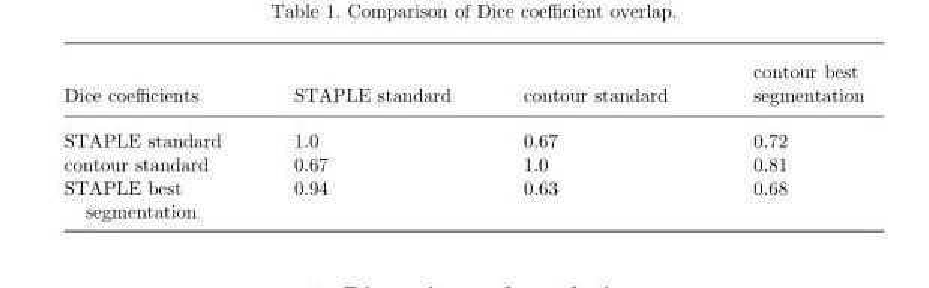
<table><thead><tr><td>Dice coefficients</td><td>STAPLE standard</td><td>contour standard</td><td>contour best segmentation</td></tr></thead><tbody><tr><td>STAPLE standard</td><td>1.0</td><td>0.67</td><td>0.72</td></tr><tr><td>contour standard</td><td>0.67</td><td>1.0</td><td>0.81</td></tr><tr><td>STAPLE best segmentation</td><td>0.94</td><td>0.63</td><td>0.68</td></tr></tbody></table>